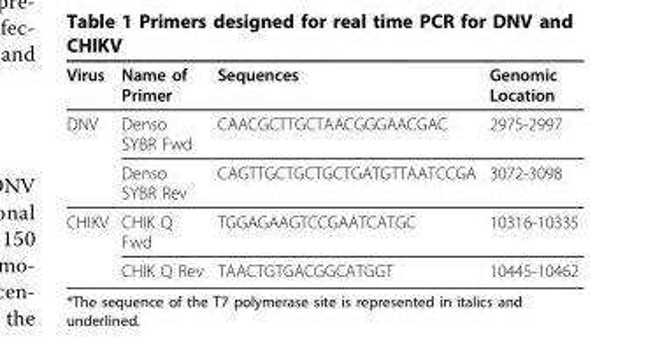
<table><thead><tr><td>Virus</td><td>Name of Primer</td><td>Sequences</td><td>Genomic Location</td></tr></thead><tbody><tr><td rowspan="2">DNV</td><td>Denso SYBR Fwd</td><td>CAACGCTTGCTAACGGGAACGAC</td><td>2975-2997</td></tr><tr><td>Denso SYBR Rev</td><td>CAGTTGCTGCTGCTGATGTTAATCCGA</td><td>3072-3098</td></tr><tr><td rowspan="2">CHIKV</td><td>CHIK Q Fwd</td><td>TGGAGAAGTCCGAATCATGC</td><td>10316-10335</td></tr><tr><td>CHIK Q Rev</td><td>TAACTGTGACGGCATGGT</td><td>10445-10462</td></tr></tbody></table>